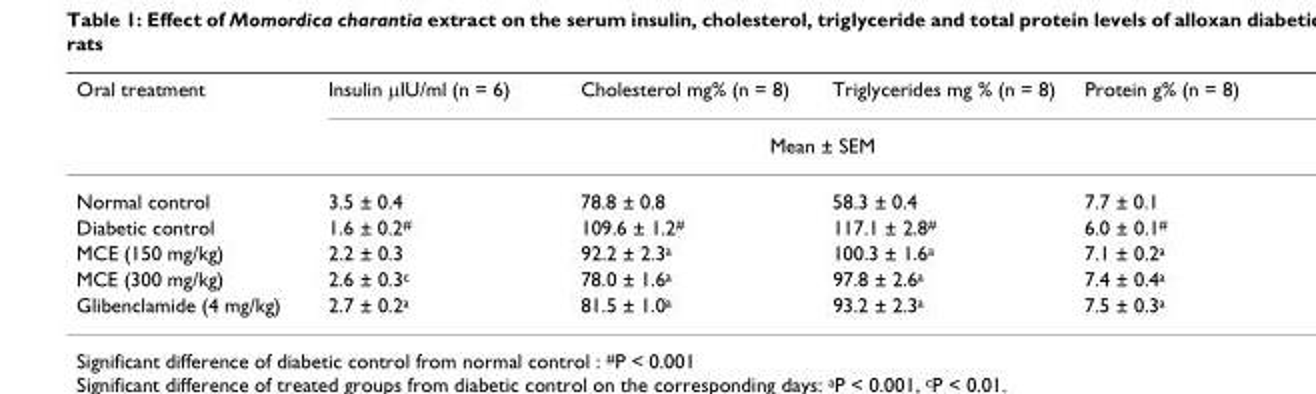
<table><thead><tr><td rowspan="2">Oral treatment</td><td>Insulin µIU/ml (n = 6)</td><td>Cholesterol mg% (n = 8)</td><td>Triglycerides mg % (n = 8)</td><td>Protein g% (n = 8)</td></tr><tr><td colspan="4">Mean ± SEM</td></tr></thead><tbody><tr><td>Normal control</td><td>3.5 ± 0.4</td><td>78.8 ± 0.8</td><td>58.3 ± 0.4</td><td>7.7 ± 0.1</td></tr><tr><td>Diabetic control</td><td>1.6 ± 0.2<sup>#</sup></td><td>109.6 ± 1.2<sup>#</sup></td><td>117.1 ± 2.8<sup>#</sup></td><td>6.0 ± 0.1<sup>#</sup></td></tr><tr><td>MCE (150 mg/kg)</td><td>2.2 ± 0.3</td><td>92.2 ± 2.3<sup>a</sup></td><td>100.3 ± 1.6<sup>a</sup></td><td>7.1 ± 0.2<sup>a</sup></td></tr><tr><td>MCE (300 mg/kg)</td><td>2.6 ± 0.3<sup>c</sup></td><td>78.0 ± 1.6<sup>a</sup></td><td>97.8 ± 2.6<sup>a</sup></td><td>7.4 ± 0.4<sup>a</sup></td></tr><tr><td>Glibenclamide (4 mg/kg)</td><td>2.7 ± 0.2<sup>a</sup></td><td>81.5 ± 1.0<sup>a</sup></td><td>93.2 ± 2.3<sup>a</sup></td><td>7.5 ± 0.3<sup>a</sup></td></tr></tbody></table>